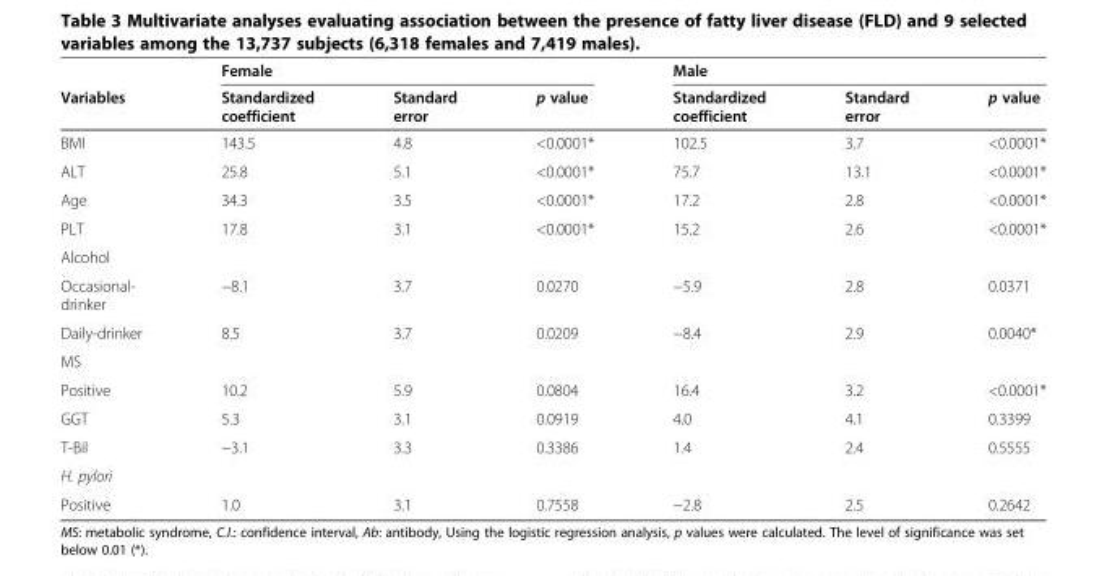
<table><thead><tr><td rowspan="2">Variables</td><td colspan="3">Female</td><td colspan="3">Male</td></tr><tr><td>Standardized coefficient</td><td>Standard error</td><td>p value</td><td>Standardized coefficient</td><td>Standard error</td><td>p value</td></tr></thead><tbody><tr><td>BMI</td><td>143.5</td><td>4.8</td><td>&lt;0.0001*</td><td>102.5</td><td>3.7</td><td>&lt;0.0001*</td></tr><tr><td>ALT</td><td>25.8</td><td>5.1</td><td>&lt;0.0001*</td><td>75.7</td><td>13.1</td><td>&lt;0.0001*</td></tr><tr><td>Age</td><td>34.3</td><td>3.5</td><td>&lt;0.0001*</td><td>17.2</td><td>2.8</td><td>&lt;0.0001*</td></tr><tr><td>PLT</td><td>17.8</td><td>3.1</td><td>&lt;0.0001*</td><td>15.2</td><td>2.6</td><td>&lt;0.0001*</td></tr><tr><td>Alcohol</td><td></td><td></td><td></td><td></td><td></td><td></td></tr><tr><td>Occasional- drinker</td><td>−8.1</td><td>3.7</td><td>0.0270</td><td>−5.9</td><td>2.8</td><td>0.0371</td></tr><tr><td>Daily-drinker</td><td>8.5</td><td>3.7</td><td>0.0209</td><td>−8.4</td><td>2.9</td><td>0.0040*</td></tr><tr><td>MS</td><td></td><td></td><td></td><td></td><td></td><td></td></tr><tr><td>Positive</td><td>10.2</td><td>5.9</td><td>0.0804</td><td>16.4</td><td>3.2</td><td>&lt;0.0001*</td></tr><tr><td>GGT</td><td>5.3</td><td>3.1</td><td>0.0919</td><td>4.0</td><td>4.1</td><td>0.3399</td></tr><tr><td>T-Bil</td><td>−3.1</td><td>3.3</td><td>0.3386</td><td>1.4</td><td>2.4</td><td>0.5555</td></tr><tr><td>H. pylori</td><td></td><td></td><td></td><td></td><td></td><td></td></tr><tr><td>Positive</td><td>1.0</td><td>3.1</td><td>0.7558</td><td>−2.8</td><td>2.5</td><td>0.2642</td></tr></tbody></table>